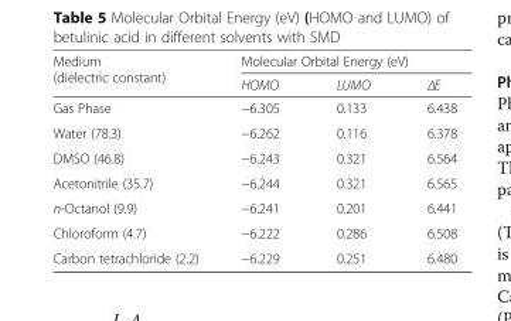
<table><thead><tr><td rowspan="2">Medium (dielectric constant)</td><td colspan="3">Molecular Orbital Energy (eV)</td></tr><tr><td>HOMO</td><td>LUMO</td><td>ΔE</td></tr></thead><tbody><tr><td>Gas Phase</td><td>−6.305</td><td>0.133</td><td>6.438</td></tr><tr><td>Water (78.3)</td><td>−6.262</td><td>0.116</td><td>6.378</td></tr><tr><td>DMSO (46.8)</td><td>−6.243</td><td>0.321</td><td>6.564</td></tr><tr><td>Acetonitrile (35.7)</td><td>−6.244</td><td>0.321</td><td>6.565</td></tr><tr><td>n-Octanol (9.9)</td><td>−6.241</td><td>0.201</td><td>6.441</td></tr><tr><td>Chloroform (4.7)</td><td>−6.222</td><td>0.286</td><td>6.508</td></tr><tr><td>Carbon tetrachloride (2.2)</td><td>−6.229</td><td>0.251</td><td>6.480</td></tr></tbody></table>